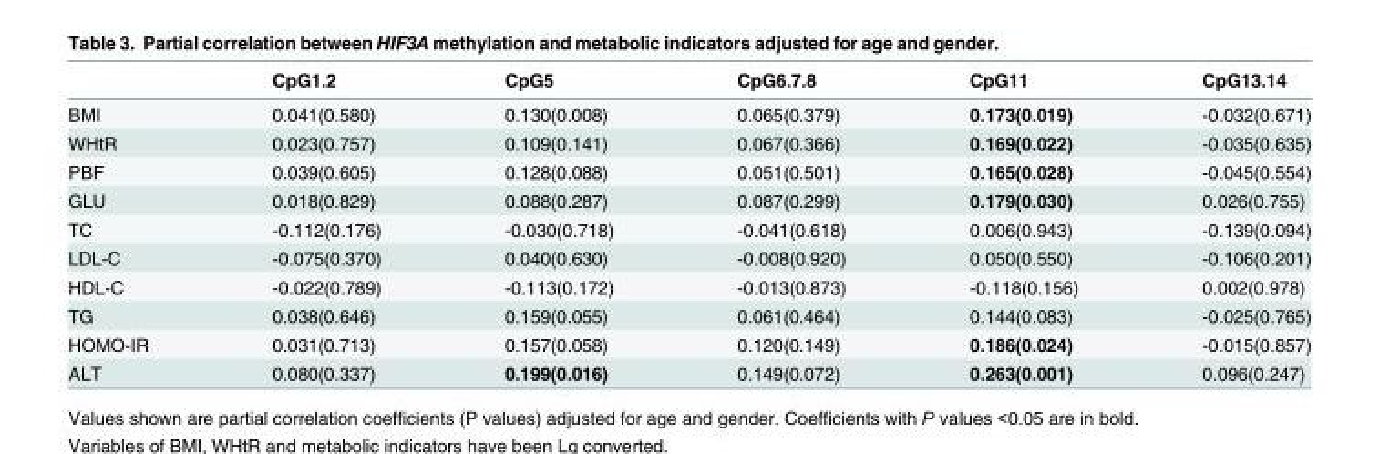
<table><thead><tr><td></td><td>CpG1.2</td><td>CpG5</td><td>CpG6.7.8</td><td>CpG11</td><td>CpG13.14</td></tr></thead><tbody><tr><td>BMI</td><td>0.041(0.580)</td><td>0.130(0.008)</td><td>0.065(0.379)</td><td>0.173(0.019)</td><td>-0.032(0.671)</td></tr><tr><td>WHtR</td><td>0.023(0.757)</td><td>0.109(0.141)</td><td>0.067(0.366)</td><td>0.169(0.022)</td><td>-0.035(0.635)</td></tr><tr><td>PBF</td><td>0.039(0.605)</td><td>0.128(0.088)</td><td>0.051(0.501)</td><td>0.165(0.028)</td><td>-0.045(0.554)</td></tr><tr><td>GLU</td><td>0.018(0.829)</td><td>0.088(0.287)</td><td>0.087(0.299)</td><td>0.179(0.030)</td><td>0.026(0.755)</td></tr><tr><td>TC</td><td>-0.112(0.176)</td><td>-0.030(0.718)</td><td>-0.041(0.618)</td><td>0.006(0.943)</td><td>-0.139(0.094)</td></tr><tr><td>LDL-C</td><td>-0.075(0.370)</td><td>0.040(0.630)</td><td>-0.008(0.920)</td><td>0.050(0.550)</td><td>-0.106(0.201)</td></tr><tr><td>HDL-C</td><td>-0.022(0.789)</td><td>-0.113(0.172)</td><td>-0.013(0.873)</td><td>-0.118(0.156)</td><td>0.002(0.978)</td></tr><tr><td>TG</td><td>0.038(0.646)</td><td>0.159(0.055)</td><td>0.061(0.464)</td><td>0.144(0.083)</td><td>-0.025(0.765)</td></tr><tr><td>HOMO-IR</td><td>0.031(0.713)</td><td>0.157(0.058)</td><td>0.120(0.149)</td><td>0.186(0.024)</td><td>-0.015(0.857)</td></tr><tr><td>ALT</td><td>0.080(0.337)</td><td>0.199(0.016)</td><td>0.149(0.072)</td><td>0.263(0.001)</td><td>0.096(0.247)</td></tr></tbody></table>